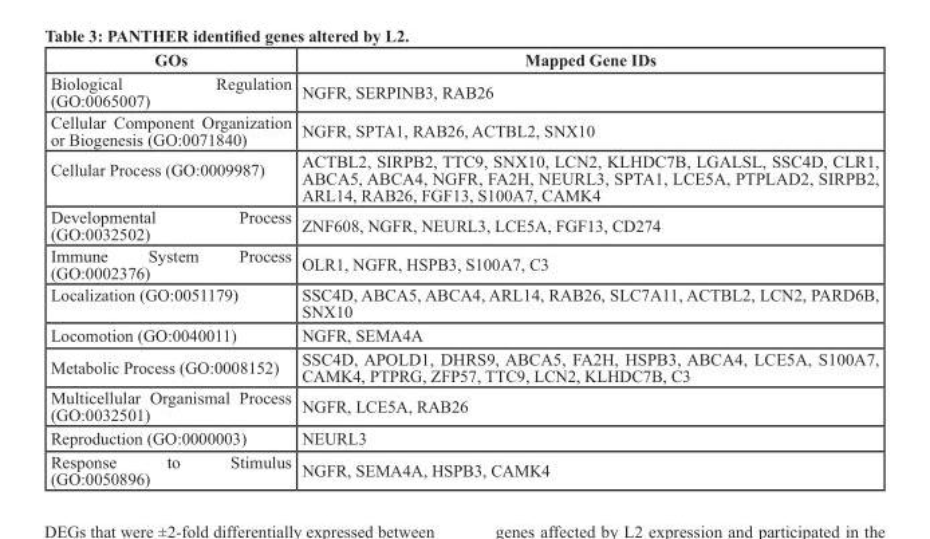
<table><thead><tr><td>GOs</td><td>Mapped Gene IDs</td></tr></thead><tbody><tr><td>Biological Regulation (GO:0065007)</td><td>NGFR, SERPINB3, RAB26</td></tr><tr><td>Cellular Component Organization or Biogenesis (GO:0071840)</td><td>NGFR, SPTA1, RAB26, ACTBL2, SNX10</td></tr><tr><td>Cellular Process (GO:0009987)</td><td>ACTBL2, SIRPB2, TTC9, SNX10, LCN2, KLHDC7B, LGALSL, SSC4D, CLR1, ABCA5, ABCA4, NGFR, FA2H, NEURL3, SPTA1, LCE5A, PTPLAD2, SIRPB2, ARL14, RAB26, FGF13, S100A7, CAMK4</td></tr><tr><td>Developmental Process (GO:0032502)</td><td>ZNF608, NGFR, NEURL3, LCE5A, FGF13, CD274</td></tr><tr><td>Immune System Process (GO:0002376)</td><td>OLR1, NGFR, HSPB3, S100A7, C3</td></tr><tr><td>Localization (GO:0051179)</td><td>SSC4D, ABCA5, ABCA4, ARL14, RAB26, SLC7A11, ACTBL2, LCN2, PARD6B, SNX10</td></tr><tr><td>Locomotion (GO:0040011)</td><td>NGFR, SEMA4A</td></tr><tr><td>Metabolic Process (GO:0008152)</td><td>SSC4D, APOLD1, DHRS9, ABCA5, FA2H, HSPB3, ABCA4, LCE5A, S100A7, CAMK4, PTPRG, ZFP57, TTC9, LCN2, KLHDC7B, C3</td></tr><tr><td>Multicellular Organismal Process (GO:0032501)</td><td>NGFR, LCE5A, RAB26</td></tr><tr><td>Reproduction (GO:0000003)</td><td>NEURL3</td></tr><tr><td>Response to Stimulus (GO:0050896)</td><td>NGFR, SEMA4A, HSPB3, CAMK4</td></tr></tbody></table>